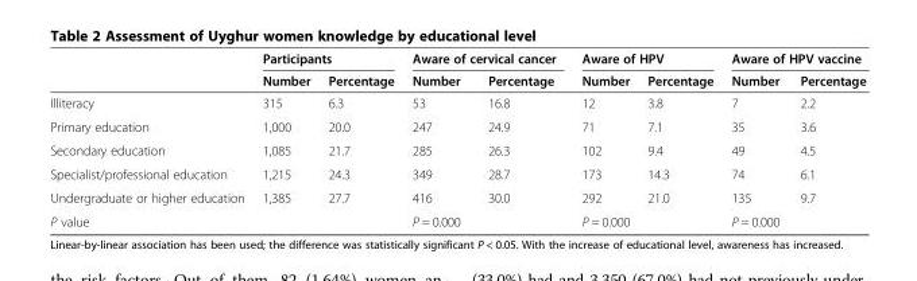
<table><thead><tr><td rowspan="2"></td><td colspan="2">Participants</td><td colspan="2">Aware of cervical cancer</td><td colspan="2">Aware of HPV</td><td colspan="2">Aware of HPV vaccine</td></tr><tr><td>Number</td><td>Percentage</td><td>Number</td><td>Percentage</td><td>Number</td><td>Percentage</td><td>Number</td><td>Percentage</td></tr></thead><tbody><tr><td>Illiteracy</td><td>315</td><td>6.3</td><td>53</td><td>16.8</td><td>12</td><td>3.8</td><td>7</td><td>2.2</td></tr><tr><td>Primary education</td><td>1,000</td><td>20.0</td><td>247</td><td>24.9</td><td>71</td><td>7.1</td><td>35</td><td>3.6</td></tr><tr><td>Secondary education</td><td>1,085</td><td>21.7</td><td>285</td><td>26.3</td><td>102</td><td>9.4</td><td>49</td><td>4.5</td></tr><tr><td>Specialist/professional education</td><td>1,215</td><td>24.3</td><td>349</td><td>28.7</td><td>173</td><td>14.3</td><td>74</td><td>6.1</td></tr><tr><td>Undergraduate or higher education</td><td>1,385</td><td>27.7</td><td>416</td><td>30.0</td><td>292</td><td>21.0</td><td>135</td><td>9.7</td></tr><tr><td>P value</td><td colspan="2"></td><td colspan="2">P = 0.000</td><td colspan="2">P = 0.000</td><td colspan="2">P = 0.000</td></tr></tbody></table>